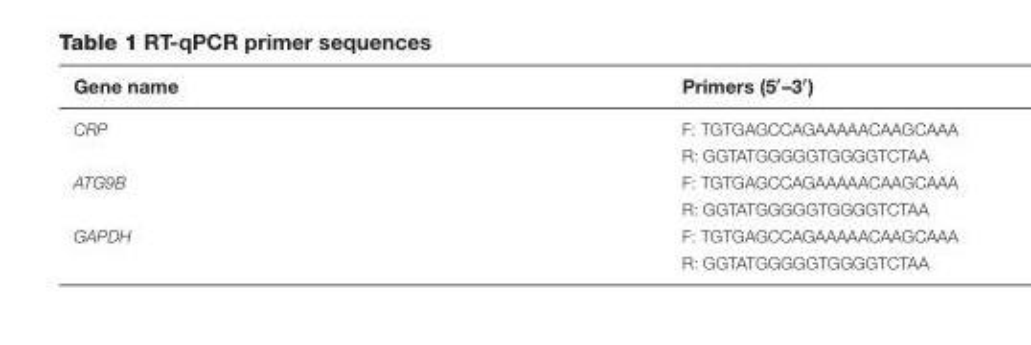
<table><thead><tr><td>Gene name</td><td>Primers (5′–3′)</td></tr></thead><tbody><tr><td rowspan="2">CRP</td><td>F: TGTGAGCCAGAAAAACAAGCAAA</td></tr><tr><td>R: GGTATGGGGGTGGGGTCTAA</td></tr><tr><td rowspan="2">ATG9B</td><td>F: TGTGAGCCAGAAAAACAAGCAAA</td></tr><tr><td>R: GGTATGGGGGTGGGGTCTAA</td></tr><tr><td rowspan="2">GAPDH</td><td>F: TGTGAGCCAGAAAAACAAGCAAA</td></tr><tr><td>R: GGTATGGGGGTGGGGTCTAA</td></tr></tbody></table>